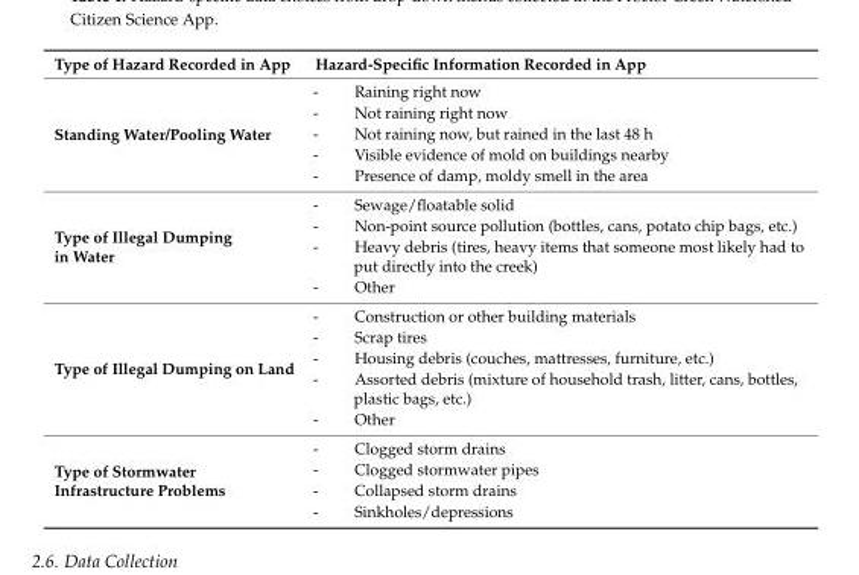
<table><thead><tr><td>Type of Hazard Recorded in App</td><td>Hazard-Specific Information Recorded in App</td></tr></thead><tbody><tr><td>Standing Water/Pooling Water</td><td>- Raining right now - Not raining right now - Not raining now, but rained in the last 48 h - Visible evidence of mold on buildings nearby - Presence of damp, moldy smell in the area</td></tr><tr><td>Type of Illegal Dumping in Water</td><td>- Sewage/floatable solid - Non-point source pollution (bottles, cans, potato chip bags, etc.) - Heavy debris (tires, heavy items that someone most likely had to put directly into the creek) - Other</td></tr><tr><td>Type of Illegal Dumping on Land</td><td>- Construction or other building materials - Scrap tires - Housing debris (couches, mattresses, furniture, etc.) - Assorted debris (mixture of household trash, litter, cans, bottles, plastic bags, etc.) - Other</td></tr><tr><td>Type of Stormwater Infrastructure Problems</td><td>- Clogged storm drains - Clogged stormwater pipes - Collapsed storm drains - Sinkholes/depressions</td></tr></tbody></table>